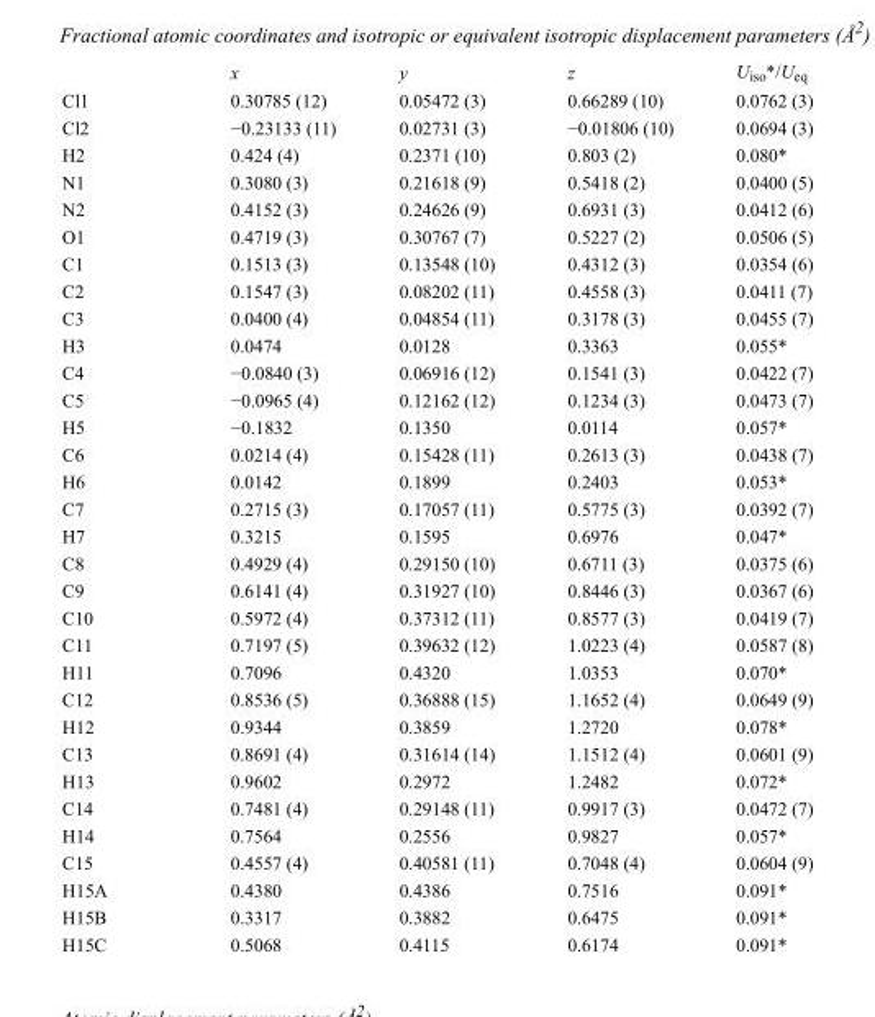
<table><thead><tr><td></td><td>x</td><td>y</td><td>z</td><td>U<sub>iso</sub>*/U<sub>eq</sub></td></tr></thead><tbody><tr><td>Cl1</td><td>0.30785 (12)</td><td>0.05472 (3)</td><td>0.66289 (10)</td><td>0.0762 (3)</td></tr><tr><td>Cl2</td><td>−0.23133 (11)</td><td>0.02731 (3)</td><td>−0.01806 (10)</td><td>0.0694 (3)</td></tr><tr><td>H2</td><td>0.424 (4)</td><td>0.2371 (10)</td><td>0.803 (2)</td><td>0.080*</td></tr><tr><td>N1</td><td>0.3080 (3)</td><td>0.21618 (9)</td><td>0.5418 (2)</td><td>0.0400 (5)</td></tr><tr><td>N2</td><td>0.4152 (3)</td><td>0.24626 (9)</td><td>0.6931 (3)</td><td>0.0412 (6)</td></tr><tr><td>O1</td><td>0.4719 (3)</td><td>0.30767 (7)</td><td>0.5227 (2)</td><td>0.0506 (5)</td></tr><tr><td>C1</td><td>0.1513 (3)</td><td>0.13548 (10)</td><td>0.4312 (3)</td><td>0.0354 (6)</td></tr><tr><td>C2</td><td>0.1547 (3)</td><td>0.08202 (11)</td><td>0.4558 (3)</td><td>0.0411 (7)</td></tr><tr><td>C3</td><td>0.0400 (4)</td><td>0.04854 (11)</td><td>0.3178 (3)</td><td>0.0455 (7)</td></tr><tr><td>H3</td><td>0.0474</td><td>0.0128</td><td>0.3363</td><td>0.055*</td></tr><tr><td>C4</td><td>−0.0840 (3)</td><td>0.06916 (12)</td><td>0.1541 (3)</td><td>0.0422 (7)</td></tr><tr><td>C5</td><td>−0.0965 (4)</td><td>0.12162 (12)</td><td>0.1234 (3)</td><td>0.0473 (7)</td></tr><tr><td>H5</td><td>−0.1832</td><td>0.1350</td><td>0.0114</td><td>0.057*</td></tr><tr><td>C6</td><td>0.0214 (4)</td><td>0.15428 (11)</td><td>0.2613 (3)</td><td>0.0438 (7)</td></tr><tr><td>H6</td><td>0.0142</td><td>0.1899</td><td>0.2403</td><td>0.053*</td></tr><tr><td>C7</td><td>0.2715 (3)</td><td>0.17057 (11)</td><td>0.5775 (3)</td><td>0.0392 (7)</td></tr><tr><td>H7</td><td>0.3215</td><td>0.1595</td><td>0.6976</td><td>0.047*</td></tr><tr><td>C8</td><td>0.4929 (4)</td><td>0.29150 (10)</td><td>0.6711 (3)</td><td>0.0375 (6)</td></tr><tr><td>C9</td><td>0.6141 (4)</td><td>0.31927 (10)</td><td>0.8446 (3)</td><td>0.0367 (6)</td></tr><tr><td>C10</td><td>0.5972 (4)</td><td>0.37312 (11)</td><td>0.8577 (3)</td><td>0.0419 (7)</td></tr><tr><td>C11</td><td>0.7197 (5)</td><td>0.39632 (12)</td><td>1.0223 (4)</td><td>0.0587 (8)</td></tr><tr><td>H11</td><td>0.7096</td><td>0.4320</td><td>1.0353</td><td>0.070*</td></tr><tr><td>C12</td><td>0.8536 (5)</td><td>0.36888 (15)</td><td>1.1652 (4)</td><td>0.0649 (9)</td></tr><tr><td>H12</td><td>0.9344</td><td>0.3859</td><td>1.2720</td><td>0.078*</td></tr><tr><td>C13</td><td>0.8691 (4)</td><td>0.31614 (14)</td><td>1.1512 (4)</td><td>0.0601 (9)</td></tr><tr><td>H13</td><td>0.9602</td><td>0.2972</td><td>1.2482</td><td>0.072*</td></tr><tr><td>C14</td><td>0.7481 (4)</td><td>0.29148 (11)</td><td>0.9917 (3)</td><td>0.0472 (7)</td></tr><tr><td>H14</td><td>0.7564</td><td>0.2556</td><td>0.9827</td><td>0.057*</td></tr><tr><td>C15</td><td>0.4557 (4)</td><td>0.40581 (11)</td><td>0.7048 (4)</td><td>0.0604 (9)</td></tr><tr><td>H15A</td><td>0.4380</td><td>0.4386</td><td>0.7516</td><td>0.091*</td></tr><tr><td>H15B</td><td>0.3317</td><td>0.3882</td><td>0.6475</td><td>0.091*</td></tr><tr><td>H15C</td><td>0.5068</td><td>0.4115</td><td>0.6174</td><td>0.091*</td></tr></tbody></table>